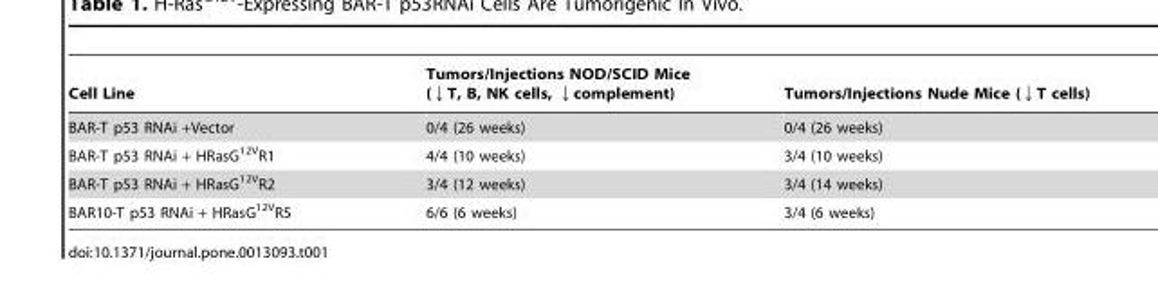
<table><thead><tr><td>Cell Line</td><td>Tumors/Injections NOD/SCID Mice (↓T, B, NK cells, ↓complement)</td><td>Tumors/Injections Nude Mice (↓T cells)</td></tr></thead><tbody><tr><td>BAR-T p53 RNAi +Vector</td><td>0/4 (26 weeks)</td><td>0/4 (26 weeks)</td></tr><tr><td>BAR-T p53 RNAi + HRasG<sup>12V</sup>R1</td><td>4/4 (10 weeks)</td><td>3/4 (10 weeks)</td></tr><tr><td>BAR-T p53 RNAi + HRasG<sup>12V</sup>R2</td><td>3/4 (12 weeks)</td><td>3/4 (14 weeks)</td></tr><tr><td>BAR10-T p53 RNAi + HRasG<sup>12V</sup>R5</td><td>6/6 (6 weeks)</td><td>3/4 (6 weeks)</td></tr></tbody></table>